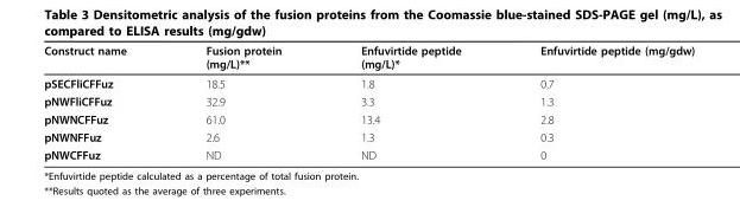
<table><thead><tr><td>Construct name</td><td>Fusion protein (mg/L)**</td><td>Enfuvirtide peptide (mg/L)*</td><td>Enfuvirtide peptide (mg/gdw)</td></tr></thead><tbody><tr><td>pSECFliCFFuz</td><td>18.5</td><td>1.8</td><td>0.7</td></tr><tr><td>pNWFliCFFuz</td><td>32.9</td><td>3.3</td><td>1.3</td></tr><tr><td>pNWNCFFuz</td><td>61.0</td><td>13.4</td><td>2.8</td></tr><tr><td>pNWNFFuz</td><td>2.6</td><td>1.3</td><td>0.3</td></tr><tr><td>pNWCFFuz</td><td>ND</td><td>ND</td><td>0</td></tr></tbody></table>